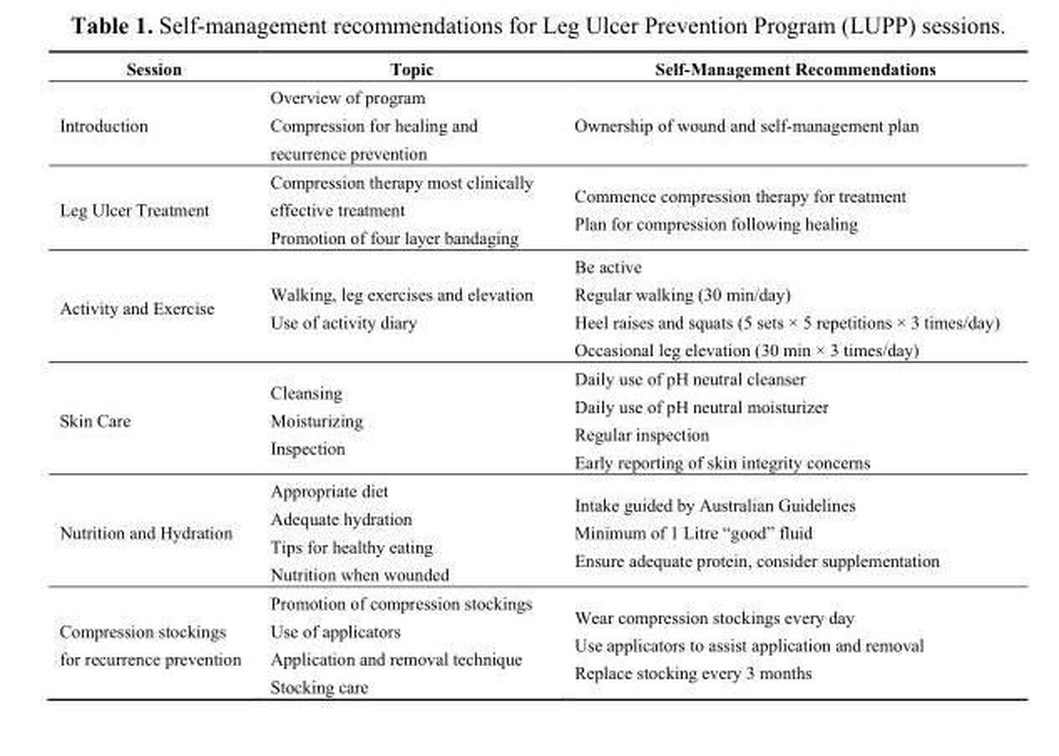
<table><thead><tr><td>Session</td><td>Topic</td><td>Self-Management Recommendations</td></tr></thead><tbody><tr><td>Introduction</td><td>Overview of program Compression for healing and recurrence prevention</td><td>Ownership of wound and self-management plan</td></tr><tr><td>Leg Ulcer Treatment</td><td>Compression therapy most clinically effective treatment Promotion of four layer bandaging</td><td>Commence compression therapy for treatment Plan for compression following healing</td></tr><tr><td>Activity and Exercise</td><td>Walking, leg exercises and elevation Use of activity diary</td><td>Be active Regular walking (30 min/day) Heel raises and squats (5 sets × 5 repetitions × 3 times/day) Occasional leg elevation (30 min × 3 times/day)</td></tr><tr><td>Skin Care</td><td>Cleansing Moisturizing Inspection</td><td>Daily use of pH neutral cleanser Daily use of pH neutral moisturizer Regular inspection Early reporting of skin integrity concerns</td></tr><tr><td>Nutrition and Hydration</td><td>Appropriate diet Adequate hydration Tips for healthy eating Nutrition when wounded</td><td>Intake guided by Australian Guidelines Minimum of 1 Litre ―good‖ fluid Ensure adequate protein, consider supplementation</td></tr><tr><td>Compression stockings for recurrence prevention</td><td>Promotion of compression stockings Use of applicators Application and removal technique Stocking care</td><td>Wear compression stockings every day Use applicators to assist application and removal Replace stocking every 3 months</td></tr></tbody></table>